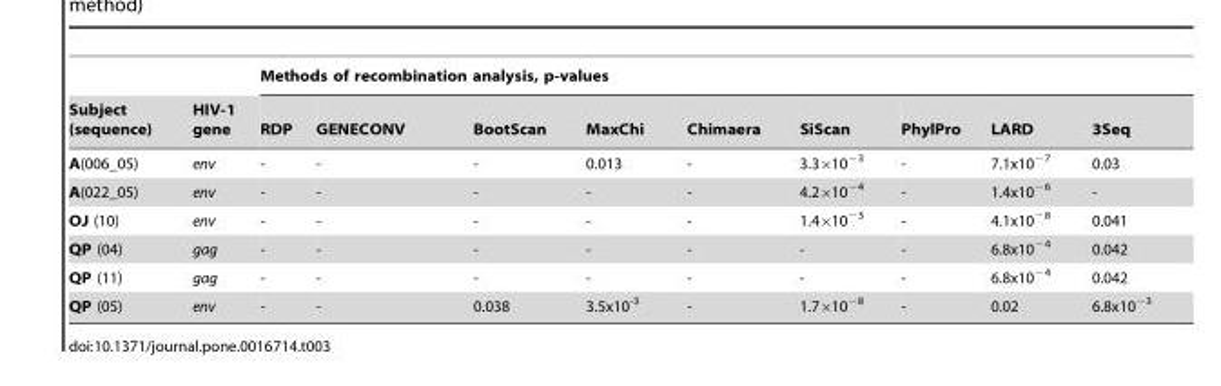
<table><thead><tr><td rowspan="2">Subject (sequence)</td><td rowspan="2">HIV-1 gene</td><td colspan="9">Methods of recombination analysis, p-values</td></tr><tr><td>RDP</td><td>GENECONV</td><td>BootScan</td><td>MaxChi</td><td>Chimaera</td><td>SiScan</td><td>PhylPro</td><td>LARD</td><td>3Seq</td></tr></thead><tbody><tr><td>A(006_05)</td><td>env</td><td>-</td><td>-</td><td>-</td><td>0.013</td><td>-</td><td>3.3×10<sup>−3</sup></td><td>-</td><td>7.1x10<sup>−7</sup></td><td>0.03</td></tr><tr><td>A(022_05)</td><td>env</td><td>-</td><td>-</td><td>-</td><td>-</td><td>-</td><td>4.2×10<sup>−4</sup></td><td>-</td><td>1.4x10<sup>−6</sup></td><td>-</td></tr><tr><td>OJ (10)</td><td>env</td><td>-</td><td>-</td><td>-</td><td>-</td><td>-</td><td>1.4×10<sup>−3</sup></td><td>-</td><td>4.1x10<sup>−8</sup></td><td>0.041</td></tr><tr><td>QP (04)</td><td>gag</td><td>-</td><td>-</td><td>-</td><td>-</td><td>-</td><td>-</td><td>-</td><td>6.8x10<sup>−4</sup></td><td>0.042</td></tr><tr><td>QP (11)</td><td>gag</td><td>-</td><td>-</td><td>-</td><td>-</td><td>-</td><td>-</td><td>-</td><td>6.8x10<sup>−4</sup></td><td>0.042</td></tr><tr><td>QP (05)</td><td>env</td><td>-</td><td>-</td><td>0.038</td><td>3.5x10<sup>-3</sup></td><td>-</td><td>1.7×10<sup>−8</sup></td><td>-</td><td>0.02</td><td>6.8x10<sup>−3</sup></td></tr></tbody></table>